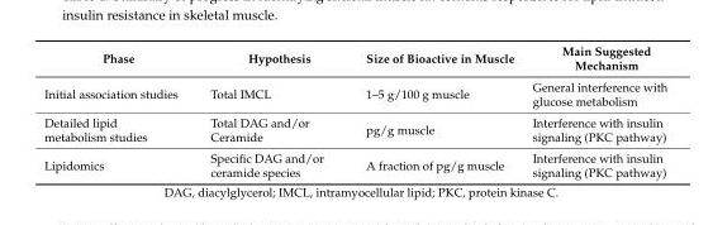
<table><thead><tr><td>Phase</td><td>Hypothesis</td><td>Size of Bioactive in Muscle</td><td>Main Suggested Mechanism</td></tr></thead><tbody><tr><td>Initial association studies</td><td>Total IMCL</td><td>1–5 g/100 g muscle</td><td>General interference with glucose metabolism</td></tr><tr><td>Detailed lipid metabolism studies</td><td>Total DAG and/or Ceramide</td><td>pg/g muscle</td><td>Interference with insulin signaling (PKC pathway)</td></tr><tr><td>Lipidomics</td><td>Specific DAG and/or ceramide species</td><td>A fraction of pg/g muscle</td><td>Interference with insulin signaling (PKC pathway)</td></tr></tbody></table>